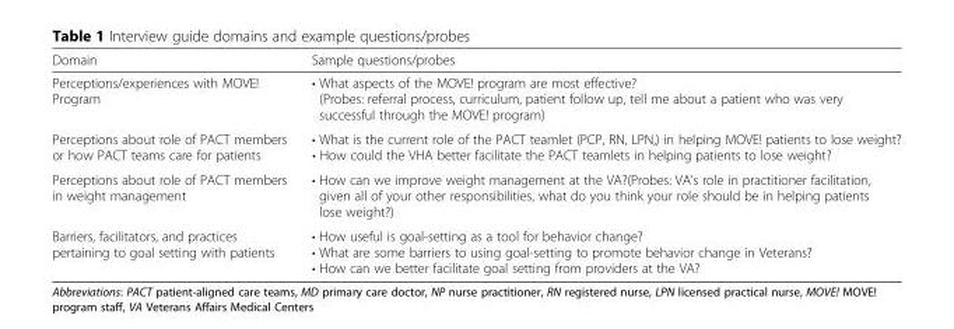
<table><thead><tr><td>Domain</td><td>Sample questions/probes</td></tr></thead><tbody><tr><td>Perceptions/experiences with MOVE! Program</td><td>• What aspects of the MOVE! program are most effective? (Probes: referral process, curriculum, patient follow up, tell me about a patient who was very successful through the MOVE! program)</td></tr><tr><td>Perceptions about role of PACT members or how PACT teams care for patients</td><td>• What is the current role of the PACT teamlet (PCP, RN, LPN,) in helping MOVE! patients to lose weight? • How could the VHA better facilitate the PACT teamlets in helping patients to lose weight?</td></tr><tr><td>Perceptions about role of PACT members in weight management</td><td>• How can we improve weight management at the VA?(Probes: VA’s role in practitioner facilitation, given all of your other responsibilities, what do you think your role should be in helping patients lose weight?)</td></tr><tr><td>Barriers, facilitators, and practices pertaining to goal setting with patients</td><td>• How useful is goal-setting as a tool for behavior change? • What are some barriers to using goal-setting to promote behavior change in Veterans? • How can we better facilitate goal setting from providers at the VA?</td></tr></tbody></table>